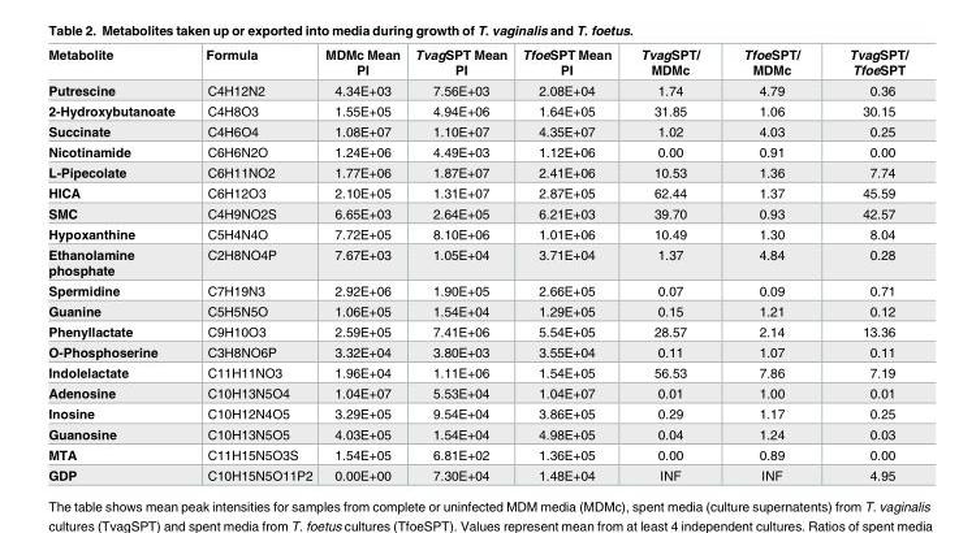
<table><thead><tr><td>Metabolite</td><td>Formula</td><td>MDMc Mean PI</td><td>TvagSPT Mean PI</td><td>TfoeSPT Mean PI</td><td>TvagSPT/ MDMc</td><td>TfoeSPT/ MDMc</td><td>TvagSPT/ TfoeSPT</td></tr></thead><tbody><tr><td>Putrescine</td><td>C4H12N2</td><td>4.34E+03</td><td>7.56E+03</td><td>2.08E+04</td><td>1.74</td><td>4.79</td><td>0.36</td></tr><tr><td>2-Hydroxybutanoate</td><td>C4H8O3</td><td>1.55E+05</td><td>4.94E+06</td><td>1.64E+05</td><td>31.85</td><td>1.06</td><td>30.15</td></tr><tr><td>Succinate</td><td>C4H6O4</td><td>1.08E+07</td><td>1.10E+07</td><td>4.35E+07</td><td>1.02</td><td>4.03</td><td>0.25</td></tr><tr><td>Nicotinamide</td><td>C6H6N2O</td><td>1.24E+06</td><td>4.49E+03</td><td>1.12E+06</td><td>0.00</td><td>0.91</td><td>0.00</td></tr><tr><td>L-Pipecolate</td><td>C6H11NO2</td><td>1.77E+06</td><td>1.87E+07</td><td>2.41E+06</td><td>10.53</td><td>1.36</td><td>7.74</td></tr><tr><td>HICA</td><td>C6H12O3</td><td>2.10E+05</td><td>1.31E+07</td><td>2.87E+05</td><td>62.44</td><td>1.37</td><td>45.59</td></tr><tr><td>SMC</td><td>C4H9NO2S</td><td>6.65E+03</td><td>2.64E+05</td><td>6.21E+03</td><td>39.70</td><td>0.93</td><td>42.57</td></tr><tr><td>Hypoxanthine</td><td>C5H4N4O</td><td>7.72E+05</td><td>8.10E+06</td><td>1.01E+06</td><td>10.49</td><td>1.30</td><td>8.04</td></tr><tr><td>Ethanolamine phosphate</td><td>C2H8NO4P</td><td>7.67E+03</td><td>1.05E+04</td><td>3.71E+04</td><td>1.37</td><td>4.84</td><td>0.28</td></tr><tr><td>Spermidine</td><td>C7H19N3</td><td>2.92E+06</td><td>1.90E+05</td><td>2.66E+05</td><td>0.07</td><td>0.09</td><td>0.71</td></tr><tr><td>Guanine</td><td>C5H5N5O</td><td>1.06E+05</td><td>1.54E+04</td><td>1.29E+05</td><td>0.15</td><td>1.21</td><td>0.12</td></tr><tr><td>Phenyllactate</td><td>C9H10O3</td><td>2.59E+05</td><td>7.41E+06</td><td>5.54E+05</td><td>28.57</td><td>2.14</td><td>13.36</td></tr><tr><td>O-Phosphoserine</td><td>C3H8NO6P</td><td>3.32E+04</td><td>3.80E+03</td><td>3.55E+04</td><td>0.11</td><td>1.07</td><td>0.11</td></tr><tr><td>Indolelactate</td><td>C11H11NO3</td><td>1.96E+04</td><td>1.11E+06</td><td>1.54E+05</td><td>56.53</td><td>7.86</td><td>7.19</td></tr><tr><td>Adenosine</td><td>C10H13N5O4</td><td>1.04E+07</td><td>5.53E+04</td><td>1.04E+07</td><td>0.01</td><td>1.00</td><td>0.01</td></tr><tr><td>Inosine</td><td>C10H12N4O5</td><td>3.29E+05</td><td>9.54E+04</td><td>3.86E+05</td><td>0.29</td><td>1.17</td><td>0.25</td></tr><tr><td>Guanosine</td><td>C10H13N5O5</td><td>4.03E+05</td><td>1.54E+04</td><td>4.98E+05</td><td>0.04</td><td>1.24</td><td>0.03</td></tr><tr><td>MTA</td><td>C11H15N5O3S</td><td>1.54E+05</td><td>6.81E+02</td><td>1.36E+05</td><td>0.00</td><td>0.89</td><td>0.00</td></tr><tr><td>GDP</td><td>C10H15N5O11P2</td><td>0.00E+00</td><td>7.30E+04</td><td>1.48E+04</td><td>INF</td><td>INF</td><td>4.95</td></tr></tbody></table>